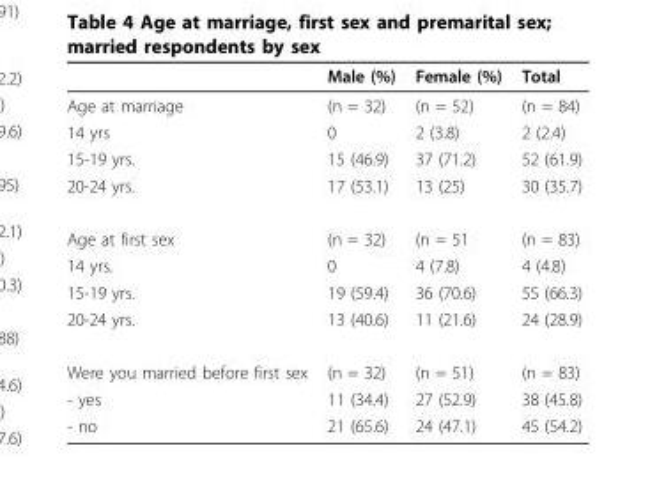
<table><thead><tr><td></td><td>Male (%)</td><td>Female (%)</td><td>Total</td></tr></thead><tbody><tr><td>Age at marriage</td><td>(n = 32)</td><td>(n = 52)</td><td>(n = 84)</td></tr><tr><td>14 yrs</td><td>0</td><td>2 (3.8)</td><td>2 (2.4)</td></tr><tr><td>15-19 yrs.</td><td>15 (46.9)</td><td>37 (71.2)</td><td>52 (61.9)</td></tr><tr><td>20-24 yrs.</td><td>17 (53.1)</td><td>13 (25)</td><td>30 (35.7)</td></tr><tr><td>Age at first sex</td><td>(n = 32)</td><td>(n = 51</td><td>(n = 83)</td></tr><tr><td>14 yrs.</td><td>0</td><td>4 (7.8)</td><td>4 (4.8)</td></tr><tr><td>15-19 yrs.</td><td>19 (59.4)</td><td>36 (70.6)</td><td>55 (66.3)</td></tr><tr><td>20-24 yrs.</td><td>13 (40.6)</td><td>11 (21.6)</td><td>24 (28.9)</td></tr><tr><td>Were you married before first sex</td><td>(n = 32)</td><td>(n = 51)</td><td>(n = 83)</td></tr><tr><td>- yes</td><td>11 (34.4)</td><td>27 (52.9)</td><td>38 (45.8)</td></tr><tr><td>- no</td><td>21 (65.6)</td><td>24 (47.1)</td><td>45 (54.2)</td></tr></tbody></table>